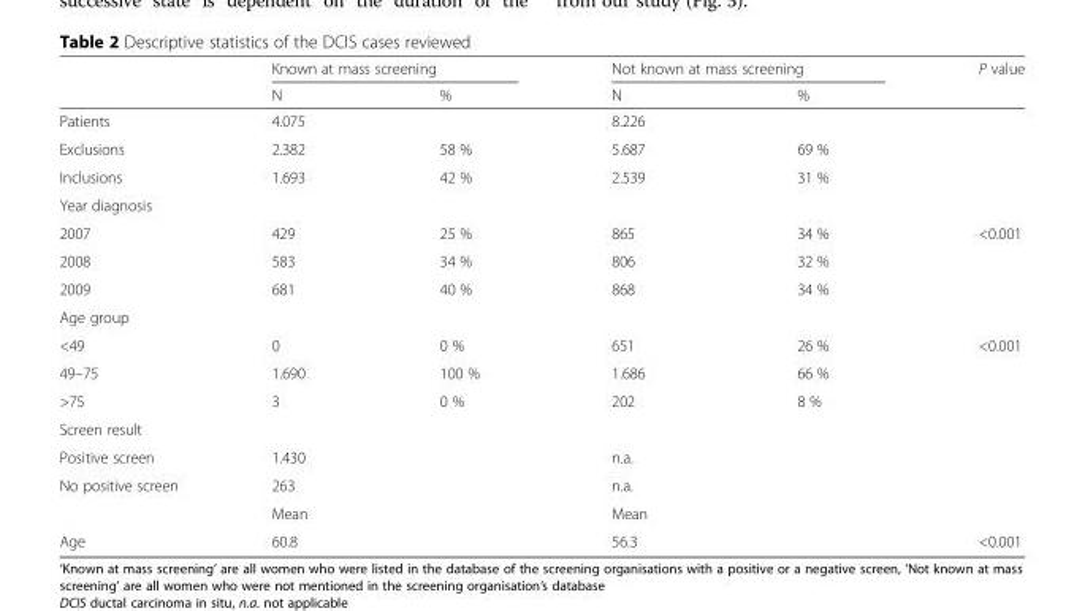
<table><thead><tr><td rowspan="2"></td><td colspan="2">Known at mass screening</td><td colspan="2">Not known at mass screening</td><td rowspan="2">P value</td></tr><tr><td>N</td><td>%</td><td>N</td><td>%</td></tr></thead><tbody><tr><td>Patients</td><td>4.075</td><td></td><td>8.226</td><td></td><td></td></tr><tr><td>Exclusions</td><td>2.382</td><td>58 %</td><td>5.687</td><td>69 %</td><td></td></tr><tr><td>Inclusions</td><td>1.693</td><td>42 %</td><td>2.539</td><td>31 %</td><td></td></tr><tr><td colspan="6">Year diagnosis</td></tr><tr><td>2007</td><td>429</td><td>25 %</td><td>865</td><td>34 %</td><td>&lt;0.001</td></tr><tr><td>2008</td><td>583</td><td>34 %</td><td>806</td><td>32 %</td><td></td></tr><tr><td>2009</td><td>681</td><td>40 %</td><td>868</td><td>34 %</td><td></td></tr><tr><td colspan="6">Age group</td></tr><tr><td>&lt;49</td><td>0</td><td>0 %</td><td>651</td><td>26 %</td><td>&lt;0.001</td></tr><tr><td>49–75</td><td>1.690</td><td>100 %</td><td>1.686</td><td>66 %</td><td></td></tr><tr><td>&gt;75</td><td>3</td><td>0 %</td><td>202</td><td>8 %</td><td></td></tr><tr><td colspan="6">Screen result</td></tr><tr><td>Positive screen</td><td>1.430</td><td></td><td>n.a.</td><td></td><td></td></tr><tr><td rowspan="2">No positive screen</td><td>263</td><td></td><td>n.a.</td><td></td><td></td></tr><tr><td>Mean</td><td></td><td>Mean</td><td></td><td></td></tr><tr><td>Age</td><td>60.8</td><td></td><td>56.3</td><td></td><td>&lt;0.001</td></tr></tbody></table>